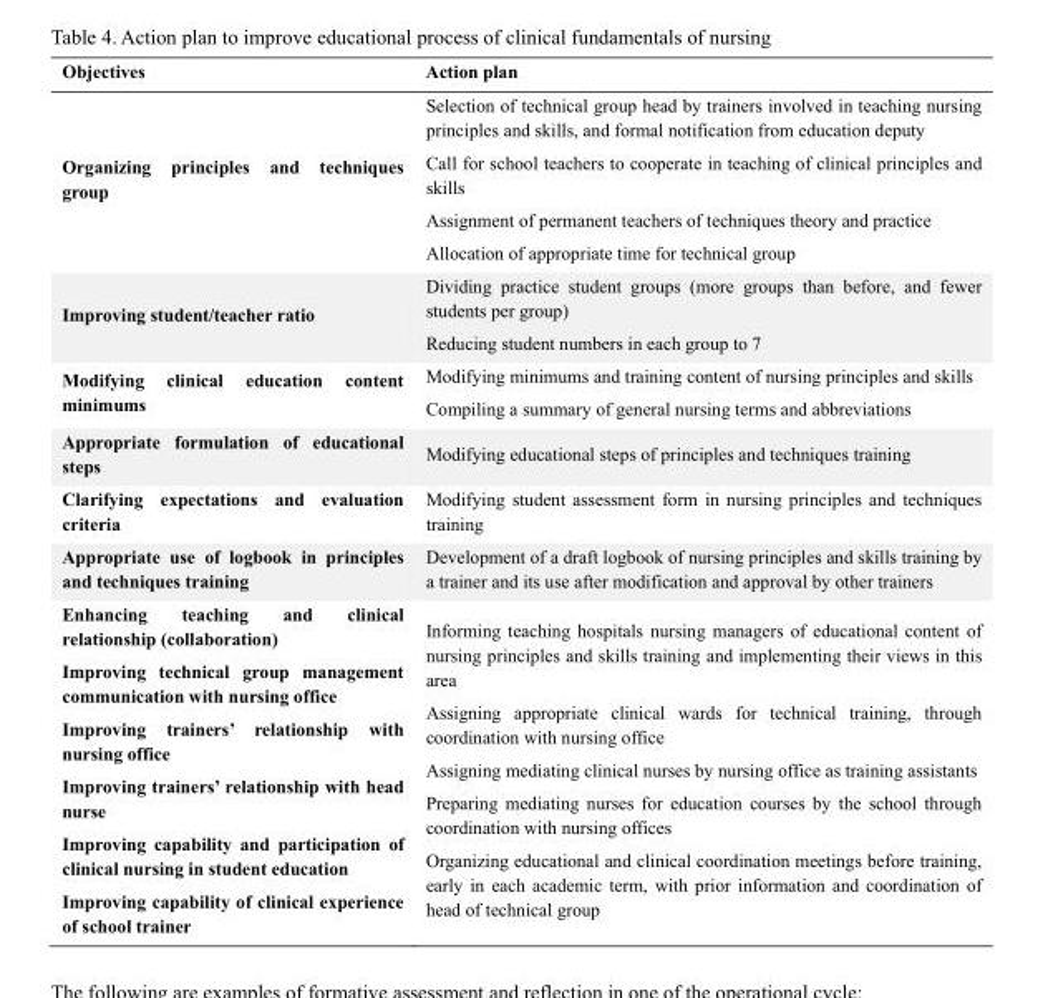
<table><thead><tr><td>Objectives</td><td>Action plan</td></tr></thead><tbody><tr><td>Organizing principles and techniques group</td><td>Selection of technical group head by trainers involved in teaching nursing principles and skills, and formal notification from education deputy Call for school teachers to cooperate in teaching of clinical principles and skills Assignment of permanent teachers of techniques theory and practice Allocation of appropriate time for technical group</td></tr><tr><td>Improving student/teacher ratio</td><td>Dividing practice student groups (more groups than before, and fewer students per group) Reducing student numbers in each group to 7</td></tr><tr><td>Modifying clinical education content minimums</td><td>Modifying minimums and training content of nursing principles and skills Compiling a summary of general nursing terms and abbreviations</td></tr><tr><td>Appropriate formulation of educational steps</td><td>Modifying educational steps of principles and techniques training</td></tr><tr><td>Clarifying expectations and evaluation criteria</td><td>Modifying student assessment form in nursing principles and techniques training</td></tr><tr><td>Appropriate use of logbook in principles and techniques training</td><td>Development of a draft logbook of nursing principles and skills training by a trainer and its use after modification and approval by other trainers</td></tr><tr><td>Enhancing teaching and clinical relationship (collaboration) Improving technical group management communication with nursing office Improving trainers’ relationship with nursing office Improving trainers’ relationship with head nurse Improving capability and participation of clinical nursing in student education Improving capability of clinical experience of school trainer</td><td>Informing teaching hospitals nursing managers of educational content of nursing principles and skills training and implementing their views in this area Assigning appropriate clinical wards for technical training, through coordination with nursing office Assigning mediating clinical nurses by nursing office as training assistants Preparing mediating nurses for education courses by the school through coordination with nursing offices Organizing educational and clinical coordination meetings before training, early in each academic term, with prior information and coordination of head of technical group</td></tr></tbody></table>